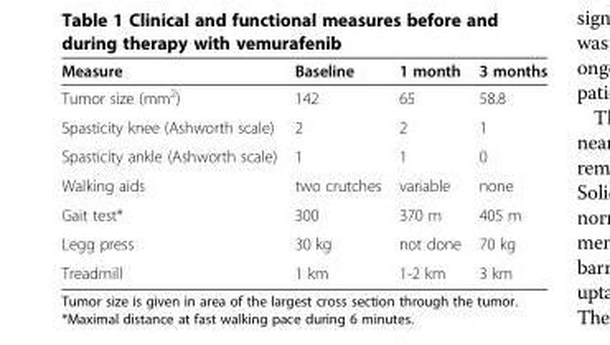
<table><thead><tr><td>Measure</td><td>Baseline</td><td>1 month</td><td>3 months</td></tr></thead><tbody><tr><td>Tumor size (mm<sup>2</sup>)</td><td>142</td><td>65</td><td>58.8</td></tr><tr><td>Spasticity knee (Ashworth scale)</td><td>2</td><td>2</td><td>1</td></tr><tr><td>Spasticity ankle (Ashworth scale)</td><td>1</td><td>1</td><td>0</td></tr><tr><td>Walking aids</td><td>two crutches</td><td>variable</td><td>none</td></tr><tr><td>Gait test*</td><td>300</td><td>370 m</td><td>405 m</td></tr><tr><td>Legg press</td><td>30 kg</td><td>not done</td><td>70 kg</td></tr><tr><td>Treadmill</td><td>1 km</td><td>1-2 km</td><td>3 km</td></tr></tbody></table>